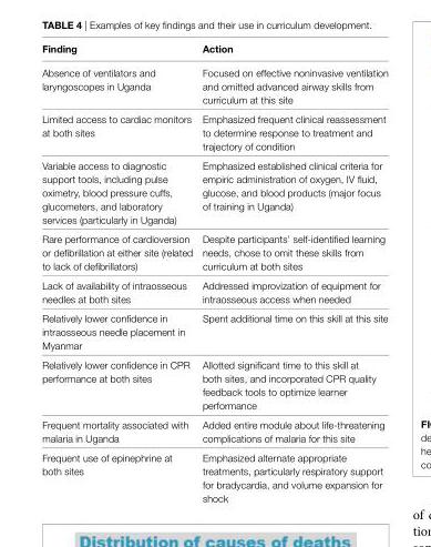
<table><thead><tr><td>Finding</td><td>action</td></tr></thead><tbody><tr><td>Absence of ventilators and laryngoscopes in Uganda</td><td>Focused on effective noninvasive ventilation and omitted advanced airway skills from curriculum at this site</td></tr><tr><td>Limited access to cardiac monitors at both sites</td><td>Emphasized frequent clinical reassessment to determine response to treatment and trajectory of condition</td></tr><tr><td>Variable access to diagnostic support tools, including pulse oximetry, blood pressure cuffs, glucometers, and laboratory services (particularly in Uganda)</td><td>Emphasized established clinical criteria for empiric administration of oxygen, IV fluid, glucose, and blood products (major focus of training in Uganda)</td></tr><tr><td>Rare performance of cardioversion or defibrillation at either site (related to lack of defibrillators)</td><td>Despite participants’ self-identified learning needs, chose to omit these skills from curriculum at both sites</td></tr><tr><td>Lack of availability of intraosseous needles at both sites</td><td>Addressed improvization of equipment for intraosseous access when needed</td></tr><tr><td>Relatively lower confidence in intraosseous needle placement in Myanmar</td><td>Spent additional time on this skill at this site</td></tr><tr><td>Relatively lower confidence in CPR performance at both sites</td><td>Allotted significant time to this skill at both sites, and incorporated CPR quality feedback tools to optimize learner performance</td></tr><tr><td>Frequent mortality associated with malaria in Uganda</td><td>Added entire module about life-threatening complications of malaria for this site</td></tr><tr><td>Frequent use of epinephrine at both sites</td><td>Emphasized alternate appropriate treatments, particularly respiratory support for bradycardia, and volume expansion for shock</td></tr></tbody></table>